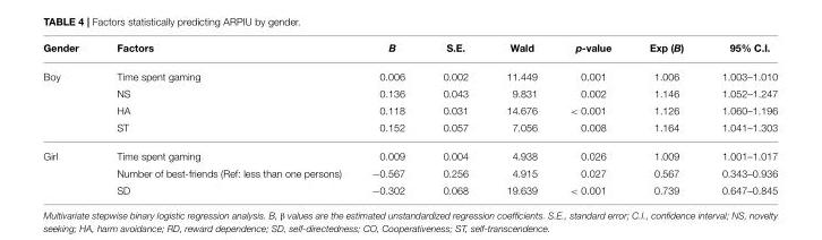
<table><thead><tr><td>Gender</td><td>Factors</td><td>B</td><td>S.E.</td><td>Wald</td><td>p-value</td><td>Exp (B)</td><td>95% C.I.</td></tr></thead><tbody><tr><td rowspan="4">Boy</td><td>Time spent gaming</td><td>0.006</td><td>0.002</td><td>11.449</td><td>0.001</td><td>1.006</td><td>1.003–1.010</td></tr><tr><td>NS</td><td>0.136</td><td>0.043</td><td>9.831</td><td>0.002</td><td>1.146</td><td>1.052–1.247</td></tr><tr><td>HA</td><td>0.118</td><td>0.031</td><td>14.676</td><td>&lt; 0.001</td><td>1.126</td><td>1.060–1.196</td></tr><tr><td>ST</td><td>0.152</td><td>0.057</td><td>7.056</td><td>0.008</td><td>1.164</td><td>1.041–1.303</td></tr><tr><td rowspan="3">Girl</td><td>Time spent gaming</td><td>0.009</td><td>0.004</td><td>4.938</td><td>0.026</td><td>1.009</td><td>1.001–1.017</td></tr><tr><td>Number of best-friends (Ref: less than one persons)</td><td>−0.567</td><td>0.256</td><td>4.915</td><td>0.027</td><td>0.567</td><td>0.343–0.936</td></tr><tr><td>SD</td><td>−0.302</td><td>0.068</td><td>19.639</td><td>&lt; 0.001</td><td>0.739</td><td>0.647–0.845</td></tr></tbody></table>